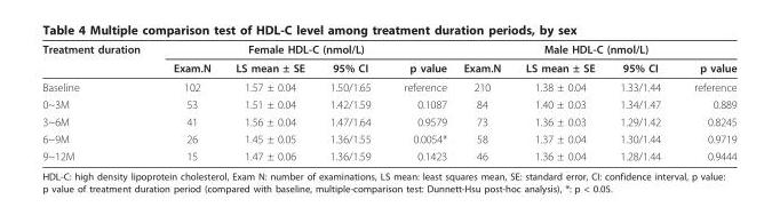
<table><tbody><tr><td rowspan="2">Treatment duration</td><td colspan="4">Female HDL-C (nmol/L)</td><td colspan="4">Male HDL-C (nmol/L)</td></tr><tr><td>Exam.N</td><td>LS mean ± SE</td><td>95% CI</td><td>p value</td><td>Exam.N</td><td>LS mean ± SE</td><td>95% CI</td><td>p value</td></tr><tr><td>Baseline</td><td>102</td><td>1.57 ± 0.04</td><td>1.50/1.65</td><td>reference</td><td>210</td><td>1.38 ± 0.04</td><td>1.33/1.44</td><td>reference</td></tr><tr><td>0~3M</td><td>53</td><td>1.51 ± 0.04</td><td>1.42/1.59</td><td>0.1087</td><td>84</td><td>1.40 ± 0.03</td><td>1.34/1.47</td><td>0.889</td></tr><tr><td>3~6M</td><td>41</td><td>1.56 ± 0.04</td><td>1.47/1.64</td><td>0.9579</td><td>73</td><td>1.36 ± 0.03</td><td>1.29/1.42</td><td>0.8245</td></tr><tr><td>6~9M</td><td>26</td><td>1.45 ± 0.05</td><td>1.36/1.55</td><td>0.0054*</td><td>58</td><td>1.37 ± 0.04</td><td>1.30/1.44</td><td>0.9719</td></tr><tr><td>9~12M</td><td>15</td><td>1.47 ± 0.06</td><td>1.36/1.59</td><td>0.1423</td><td>46</td><td>1.36 ± 0.04</td><td>1.28/1.44</td><td>0.9444</td></tr></tbody></table>